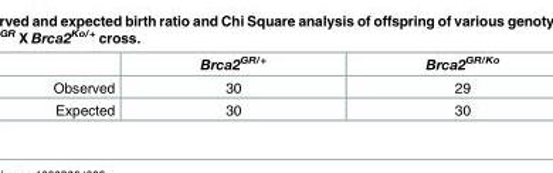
<table><thead><tr><td></td><td>Brca2<sup>GR/+</sup></td><td>Brca2<sup>GR/Ko</sup></td></tr></thead><tbody><tr><td>Observed</td><td>30</td><td>29</td></tr><tr><td>Expected</td><td>30</td><td>30</td></tr></tbody></table>